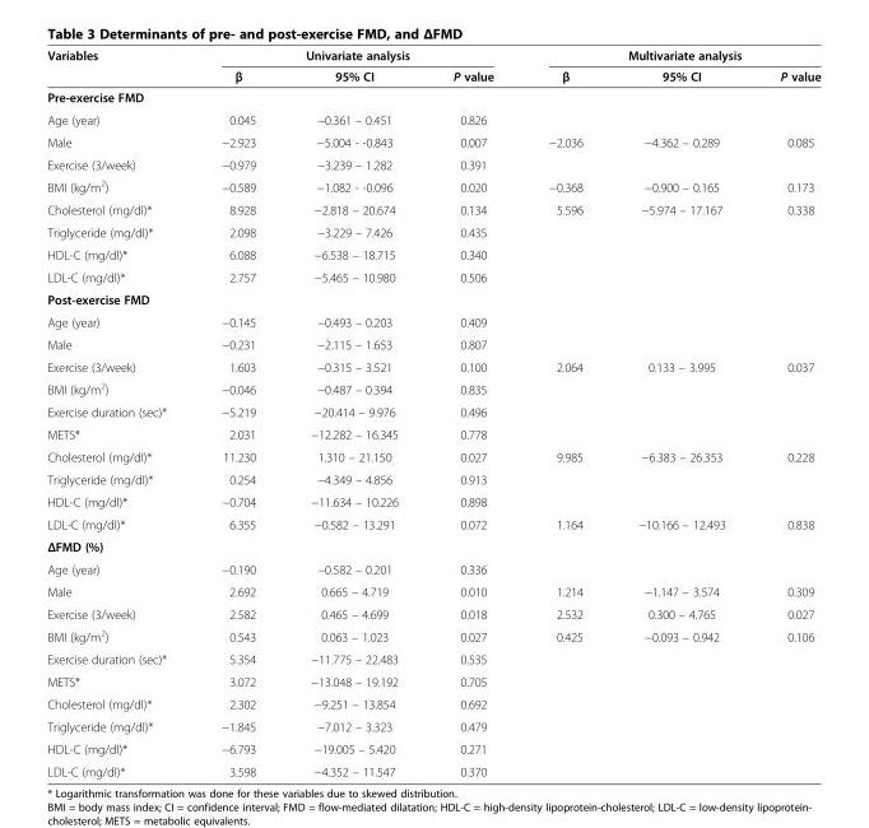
<table><thead><tr><td rowspan="2">Variables</td><td colspan="3">Univariate analysis</td><td colspan="3">Multivariate analysis</td></tr><tr><td>β</td><td>95% CI</td><td>P value</td><td>β</td><td>95% CI</td><td>P value</td></tr></thead><tbody><tr><td colspan="7">Pre-exercise FMD</td></tr><tr><td>Age (year)</td><td>0.045</td><td>−0.361 – 0.451</td><td>0.826</td><td></td><td></td><td></td></tr><tr><td>Male</td><td>−2.923</td><td>−5.004 - -0.843</td><td>0.007</td><td>−2.036</td><td>−4.362 – 0.289</td><td>0.085</td></tr><tr><td>Exercise (3/week)</td><td>−0.979</td><td>−3.239 – 1.282</td><td>0.391</td><td></td><td></td><td></td></tr><tr><td>BMI (kg/m<sup>2</sup>)</td><td>−0.589</td><td>−1.082 - -0.096</td><td>0.020</td><td>−0.368</td><td>−0.900 – 0.165</td><td>0.173</td></tr><tr><td>Cholesterol (mg/dl)*</td><td>8.928</td><td>−2.818 – 20.674</td><td>0.134</td><td>5.596</td><td>−5.974 – 17.167</td><td>0.338</td></tr><tr><td>Triglyceride (mg/dl)*</td><td>2.098</td><td>−3.229 – 7.426</td><td>0.435</td><td></td><td></td><td></td></tr><tr><td>HDL-C (mg/dl)*</td><td>6.088</td><td>−6.538 – 18.715</td><td>0.340</td><td></td><td></td><td></td></tr><tr><td>LDL-C (mg/dl)*</td><td>2.757</td><td>−5.465 – 10.980</td><td>0.506</td><td></td><td></td><td></td></tr><tr><td colspan="7">Post-exercise FMD</td></tr><tr><td>Age (year)</td><td>−0.145</td><td>−0.493 – 0.203</td><td>0.409</td><td></td><td></td><td></td></tr><tr><td>Male</td><td>−0.231</td><td>−2.115 – 1.653</td><td>0.807</td><td></td><td></td><td></td></tr><tr><td>Exercise (3/week)</td><td>1.603</td><td>−0.315 – 3.521</td><td>0.100</td><td>2.064</td><td>0.133 – 3.995</td><td>0.037</td></tr><tr><td>BMI (kg/m<sup>2</sup>)</td><td>−0.046</td><td>−0.487 – 0.394</td><td>0.835</td><td></td><td></td><td></td></tr><tr><td>Exercise duration (sec)*</td><td>−5.219</td><td>−20.414 – 9.976</td><td>0.496</td><td></td><td></td><td></td></tr><tr><td>METS*</td><td>2.031</td><td>−12.282 – 16.345</td><td>0.778</td><td></td><td></td><td></td></tr><tr><td>Cholesterol (mg/dl)*</td><td>11.230</td><td>1.310 – 21.150</td><td>0.027</td><td>9.985</td><td>−6.383 – 26.353</td><td>0.228</td></tr><tr><td>Triglyceride (mg/dl)*</td><td>0.254</td><td>−4.349 – 4.856</td><td>0.913</td><td></td><td></td><td></td></tr><tr><td>HDL-C (mg/dl)*</td><td>−0.704</td><td>−11.634 – 10.226</td><td>0.898</td><td></td><td></td><td></td></tr><tr><td>LDL-C (mg/dl)*</td><td>6.355</td><td>−0.582 – 13.291</td><td>0.072</td><td>1.164</td><td>−10.166 – 12.493</td><td>0.838</td></tr><tr><td colspan="7">ΔFMD (%)</td></tr><tr><td>Age (year)</td><td>−0.190</td><td>−0.582 – 0.201</td><td>0.336</td><td></td><td></td><td></td></tr><tr><td>Male</td><td>2.692</td><td>0.665 – 4.719</td><td>0.010</td><td>1.214</td><td>−1.147 – 3.574</td><td>0.309</td></tr><tr><td>Exercise (3/week)</td><td>2.582</td><td>0.465 – 4.699</td><td>0.018</td><td>2.532</td><td>0.300 – 4.765</td><td>0.027</td></tr><tr><td>BMI (kg/m<sup>2</sup>)</td><td>0.543</td><td>0.063 – 1.023</td><td>0.027</td><td>0.425</td><td>−0.093 – 0.942</td><td>0.106</td></tr><tr><td>Exercise duration (sec)*</td><td>5.354</td><td>−11.775 – 22.483</td><td>0.535</td><td></td><td></td><td></td></tr><tr><td>METS*</td><td>3.072</td><td>−13.048 – 19.192</td><td>0.705</td><td></td><td></td><td></td></tr><tr><td>Cholesterol (mg/dl)*</td><td>2.302</td><td>−9.251 – 13.854</td><td>0.692</td><td></td><td></td><td></td></tr><tr><td>Triglyceride (mg/dl)*</td><td>−1.845</td><td>−7.012 – 3.323</td><td>0.479</td><td></td><td></td><td></td></tr><tr><td>HDL-C (mg/dl)*</td><td>−6.793</td><td>−19.005 – 5.420</td><td>0.271</td><td></td><td></td><td></td></tr><tr><td>LDL-C (mg/dl)*</td><td>3.598</td><td>−4.352 – 11.547</td><td>0.370</td><td></td><td></td><td></td></tr></tbody></table>